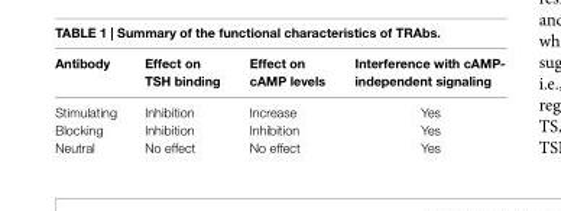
<table><thead><tr><td>Antibody</td><td>effect on TSH binding</td><td>effect on cAMP levels</td><td>interference with cAMP- independent signaling</td></tr></thead><tbody><tr><td>Stimulating</td><td>Inhibition</td><td>Increase</td><td>Yes</td></tr><tr><td>Blocking</td><td>Inhibition</td><td>Inhibition</td><td>Yes</td></tr><tr><td>Neutral</td><td>No effect</td><td>No effect</td><td>Yes</td></tr></tbody></table>